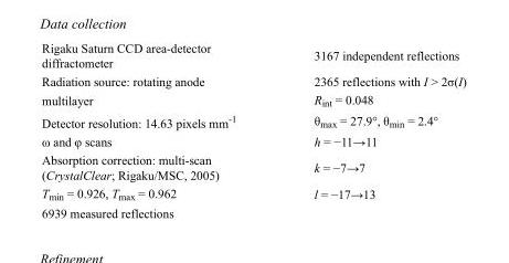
<table><tbody><tr><td>Rigaku Saturn CCD area-detector diffractometer</td><td>3167 independent reflections</td></tr><tr><td>Radiation source: rotating anode</td><td>2365 reflections with I &gt; 2σ(I)</td></tr><tr><td>multilayer</td><td>R<sub>int</sub> = 0.048</td></tr><tr><td>Detector resolution: 14.63 pixels mm<sup>-1</sup></td><td>θ<sub>max</sub> = 27.9°, θ<sub>min</sub> = 2.4°</td></tr><tr><td>ω and φ scans</td><td>h = −11→11</td></tr><tr><td>Absorption correction: multi-scan (CrystalClear; Rigaku/MSC, 2005)</td><td>k = −7→7</td></tr><tr><td>T<sub>min</sub> = 0.926, T<sub>max</sub> = 0.962</td><td>l = −17→13</td></tr><tr><td>6939 measured reflections</td><td></td></tr></tbody></table>